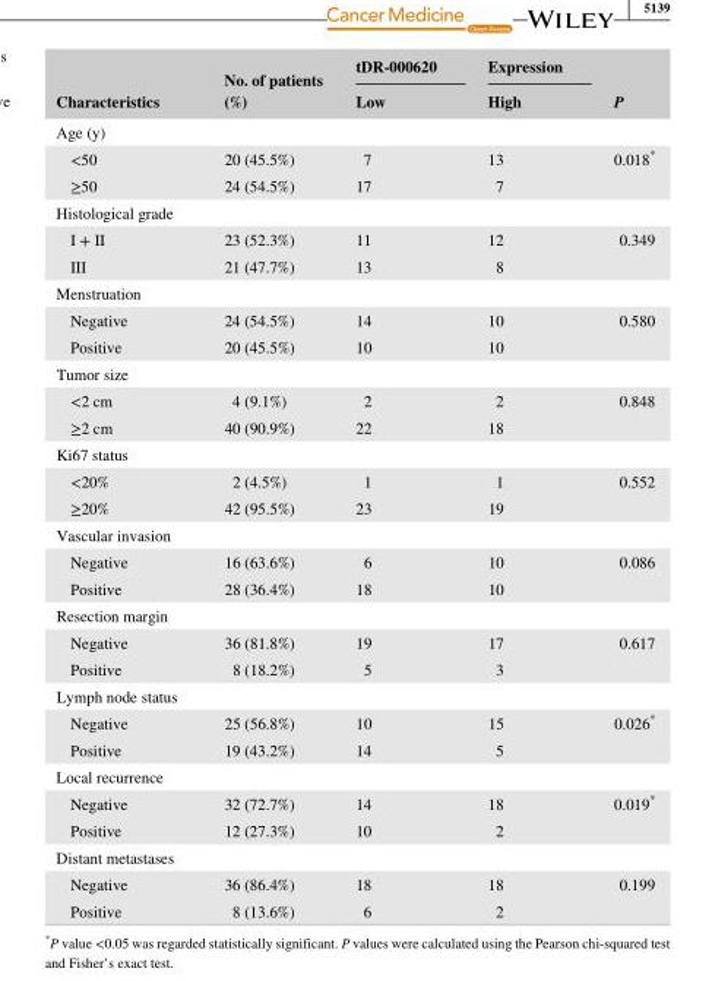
<table><thead><tr><td rowspan="2">Characteristics</td><td rowspan="2">No. of patients (%)</td><td rowspan="2">tDR- 000620 Low</td><td rowspan="2">Expression High</td><td rowspan="2">P</td></tr><tr></tr></thead><tbody><tr><td colspan="5">Age (y)</td></tr><tr><td>&lt;50</td><td>20 (45.5%)</td><td>7</td><td>13</td><td rowspan="2">0.018*</td></tr><tr><td>≥50</td><td>24 (54.5%)</td><td>17</td><td>7</td></tr><tr><td colspan="5">Histological grade</td></tr><tr><td>I + II</td><td>23 (52.3%)</td><td>11</td><td>12</td><td rowspan="2">0.349</td></tr><tr><td>III</td><td>21 (47.7%)</td><td>13</td><td>8</td></tr><tr><td colspan="5">Menstruation</td></tr><tr><td>Negative</td><td>24 (54.5%)</td><td>14</td><td>10</td><td rowspan="2">0.580</td></tr><tr><td>Positive</td><td>20 (45.5%)</td><td>10</td><td>10</td></tr><tr><td colspan="5">Tumor size</td></tr><tr><td>&lt;2 cm</td><td>4 (9.1%)</td><td>2</td><td>2</td><td rowspan="2">0.848</td></tr><tr><td>≥2 cm</td><td>40 (90.9%)</td><td>22</td><td>18</td></tr><tr><td colspan="5">Ki67 status</td></tr><tr><td>&lt;20%</td><td>2 (4.5%)</td><td>1</td><td>1</td><td rowspan="2">0.552</td></tr><tr><td>≥20%</td><td>42 (95.5%)</td><td>23</td><td>19</td></tr><tr><td colspan="5">Vascular invasion</td></tr><tr><td>Negative</td><td>16 (63.6%)</td><td>6</td><td>10</td><td rowspan="2">0.086</td></tr><tr><td>Positive</td><td>28 (36.4%)</td><td>18</td><td>10</td></tr><tr><td colspan="5">Resection margin</td></tr><tr><td>Negative</td><td>36 (81.8%)</td><td>19</td><td>17</td><td rowspan="2">0.617</td></tr><tr><td>Positive</td><td>8 (18.2%)</td><td>5</td><td>3</td></tr><tr><td colspan="5">Lymph node status</td></tr><tr><td>Negative</td><td>25 (56.8%)</td><td>10</td><td>15</td><td rowspan="2">0.026*</td></tr><tr><td>Positive</td><td>19 (43.2%)</td><td>14</td><td>5</td></tr><tr><td colspan="5">Local recurrence</td></tr><tr><td>Negative</td><td>32 (72.7%)</td><td>14</td><td>18</td><td rowspan="2">0.019*</td></tr><tr><td>Positive</td><td>12 (27.3%)</td><td>10</td><td>2</td></tr><tr><td colspan="5">Distant metastases</td></tr><tr><td>Negative</td><td>36 (86.4%)</td><td>18</td><td>18</td><td rowspan="2">0.199</td></tr><tr><td>Positive</td><td>8 (13.6%)</td><td>6</td><td>2</td></tr></tbody></table>